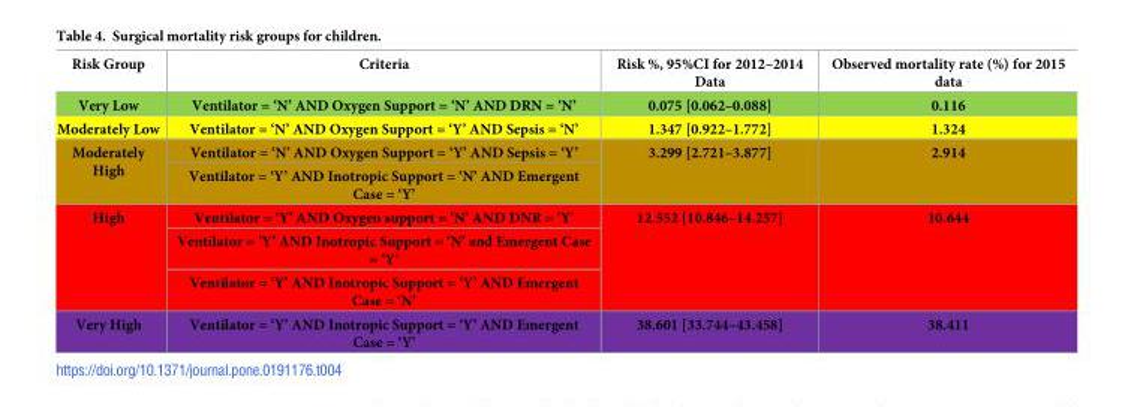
<table><thead><tr><td>Risk Group</td><td>Criteria</td><td>Risk %, 95%CI for 2012–2014 Data</td><td>Observed mortality rate (%) for 2015 data</td></tr></thead><tbody><tr><td>Very Low</td><td>Ventilator = ‘N’ AND Oxygen Support = ‘N’ AND DRN = ‘N’</td><td>0.075 [0.062–0.088]</td><td>0.116</td></tr><tr><td>Moderately Low</td><td>Ventilator = ‘N’ AND Oxygen Support = ‘Y’ AND Sepsis = ‘N’</td><td>1.347 [0.922–1.772]</td><td>1.324</td></tr><tr><td rowspan="2">Moderately High</td><td>Ventilator = ‘N’ AND Oxygen Support = ‘Y’ AND Sepsis = ‘Y’</td><td rowspan="2">3.299 [2.721–3.877]</td><td rowspan="2">2.914</td></tr><tr><td>Ventilator = ‘Y’ AND Inotropic Support = ‘N’ AND Emergent Case = ‘Y’</td></tr><tr><td rowspan="3">High</td><td>Ventilator = ‘Y’ AND Oxygen support = ‘N’ AND DNR = ‘Y’</td><td rowspan="3">12.552 [10.846–14.257]</td><td rowspan="3">10.644</td></tr><tr><td>Ventilator = ‘Y’ AND Inotropic Support = ‘N’ and Emergent Case = ‘Y’</td></tr><tr><td>Ventilator = ‘Y’ AND Inotropic Support = ‘Y’ AND Emergent Case = ‘N’</td></tr><tr><td>Very High</td><td>Ventilator = ‘Y’ AND Inotropic Support = ‘Y’ AND Emergent Case = ‘Y’</td><td>38.601 [33.744–43.458]</td><td>38.411</td></tr></tbody></table>